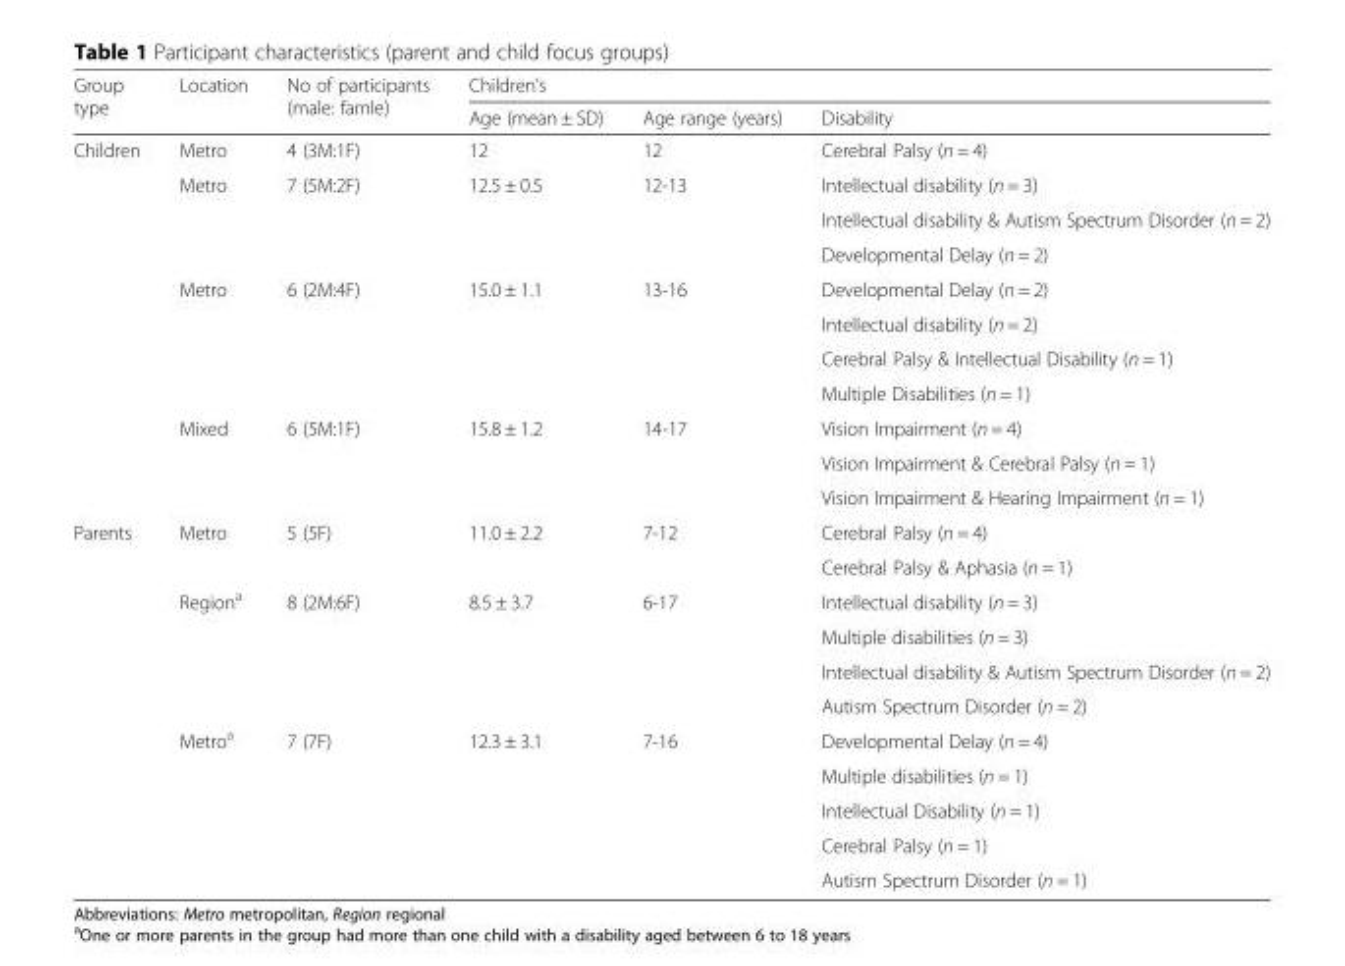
<table><thead><tr><td rowspan="2">Group type</td><td rowspan="2">Location</td><td rowspan="2">No of participants (male: famle)</td><td colspan="3">Children’s</td></tr><tr><td>Age (mean ± SD)</td><td>Age range (years)</td><td>Disability</td></tr></thead><tbody><tr><td rowspan="11">Children</td><td>Metro</td><td>4 (3M:1F)</td><td>12</td><td>12</td><td>Cerebral Palsy (n = 4)</td></tr><tr><td rowspan="3">Metro</td><td rowspan="3">7 (5M:2F)</td><td rowspan="3">12.5 ± 0.5</td><td rowspan="3">12-13</td><td>Intellectual disability (n = 3)</td></tr><tr><td>Intellectual disability &amp; Autism Spectrum Disorder (n = 2)</td></tr><tr><td>Developmental Delay (n = 2)</td></tr><tr><td rowspan="4">Metro</td><td rowspan="4">6 (2M:4F)</td><td rowspan="4">15.0 ± 1.1</td><td rowspan="4">13-16</td><td>Developmental Delay (n = 2)</td></tr><tr><td>Intellectual disability (n = 2)</td></tr><tr><td>Cerebral Palsy &amp; Intellectual Disability (n = 1)</td></tr><tr><td>Multiple Disabilities (n = 1)</td></tr><tr><td rowspan="3">Mixed</td><td rowspan="3">6 (5M:1F)</td><td rowspan="3">15.8 ± 1.2</td><td rowspan="3">14-17</td><td>Vision Impairment (n = 4)</td></tr><tr><td>Vision Impairment &amp; Cerebral Palsy (n = 1)</td></tr><tr><td>Vision Impairment &amp; Hearing Impairment (n = 1)</td></tr><tr><td rowspan="11">Parents</td><td rowspan="2">Metro</td><td rowspan="2">5 (5F)</td><td rowspan="2">11.0 ± 2.2</td><td rowspan="2">7-12</td><td>Cerebral Palsy (n = 4)</td></tr><tr><td>Cerebral Palsy &amp; Aphasia (n = 1)</td></tr><tr><td rowspan="4">Region<sup>a</sup></td><td rowspan="4">8 (2M:6F)</td><td rowspan="4">8.5 ± 3.7</td><td rowspan="4">6-17</td><td>Intellectual disability (n = 3)</td></tr><tr><td>Multiple disabilities (n = 3)</td></tr><tr><td>Intellectual disability &amp; Autism Spectrum Disorder (n = 2)</td></tr><tr><td>Autism Spectrum Disorder (n = 2)</td></tr><tr><td rowspan="5">Metro<sup>a</sup></td><td rowspan="5">7 (7F)</td><td rowspan="5">12.3 ± 3.1</td><td rowspan="5">7-16</td><td>Developmental Delay (n = 4)</td></tr><tr><td>Multiple disabilities (n = 1)</td></tr><tr><td>Intellectual Disability (n = 1)</td></tr><tr><td>Cerebral Palsy (n = 1)</td></tr><tr><td>Autism Spectrum Disorder (n = 1)</td></tr></tbody></table>